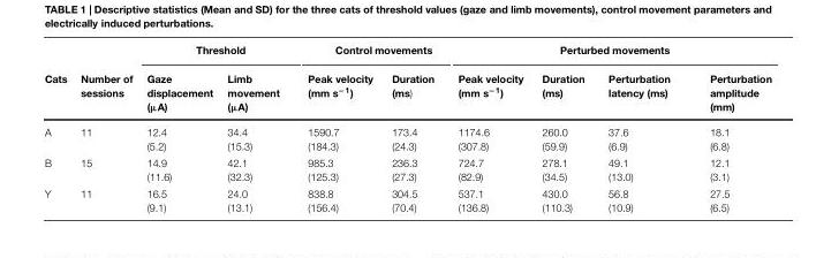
<table><thead><tr><td rowspan="2">Cats</td><td rowspan="2">Number of sessions</td><td colspan="2">Threshold</td><td colspan="2">Control movements</td><td colspan="4">Perturbed movements</td></tr><tr><td>Gaze displacement (µA)</td><td>Limb movement (µA)</td><td>Peak velocity (mm s<sup>−1</sup>)</td><td>Duration (ms)</td><td>Peak velocity (mm s<sup>−1</sup>)</td><td>Duration (ms)</td><td>Perturbation latency (ms)</td><td>Perturbation amplitude (mm)</td></tr></thead><tbody><tr><td>A</td><td>11</td><td>12.4 (5.2)</td><td>34.4 (15.3)</td><td>1590.7 (184.3)</td><td>173.4 (24.3)</td><td>1174.6 (307.8)</td><td>260.0 (59.9)</td><td>37.6 (6.9)</td><td>18.1 (6.8)</td></tr><tr><td>B</td><td>15</td><td>14.9 (11.6)</td><td>42.1 (32.3)</td><td>985.3 (125.3)</td><td>236.3 (27.3)</td><td>724.7 (82.9)</td><td>278.1 (34.5)</td><td>49.1 (13.0)</td><td>12.1 (3.1)</td></tr><tr><td>Y</td><td>11</td><td>16.5 (9.1)</td><td>24.0 (13.1)</td><td>838.8 (156.4)</td><td>304.5 (70.4)</td><td>537.1 (136.8)</td><td>430.0 (110.3)</td><td>56.8 (10.9)</td><td>27.5 (6.5)</td></tr></tbody></table>